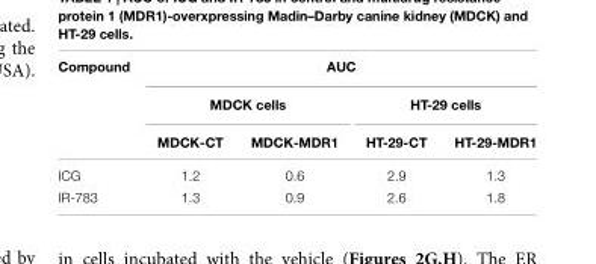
<table><thead><tr><td rowspan="3">Compound</td><td colspan="4">AUC</td></tr><tr><td colspan="2">MDCK cells</td><td colspan="2">HT-29 cells</td></tr><tr><td>MDCK-CT</td><td>MDCK-MDR1</td><td>HT-29-CT</td><td>HT-29-MDR1</td></tr></thead><tbody><tr><td>ICG</td><td>1.2</td><td>0.6</td><td>2.9</td><td>1.3</td></tr><tr><td>IR-783</td><td>1.3</td><td>0.9</td><td>2.6</td><td>1.8</td></tr></tbody></table>